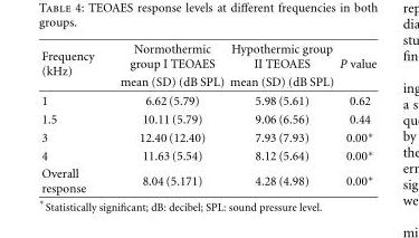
<table><thead><tr><td rowspan="2">Frequency (kHz)</td><td rowspan="2">Normothermic group I TEOAES mean (SD) (dB SPL)</td><td rowspan="2">Hypothermic group II TEOAES mean (SD) (dB SPL)</td><td rowspan="2">P value</td></tr><tr></tr></thead><tbody><tr><td>1</td><td>6.62 (5.79)</td><td>5.98 (5.61)</td><td>0.62</td></tr><tr><td>1.5</td><td>10.11 (5.79)</td><td>9.06 (6.56)</td><td>0.44</td></tr><tr><td>3</td><td>12.40 (12.40)</td><td>7.93 (7.93)</td><td>0.00∗</td></tr><tr><td>4</td><td>11.63 (5.54)</td><td>8.12 (5.64)</td><td>0.00∗</td></tr><tr><td>Overall response</td><td>8.04 (5.171)</td><td>4.28 (4.98)</td><td>0.00∗</td></tr></tbody></table>